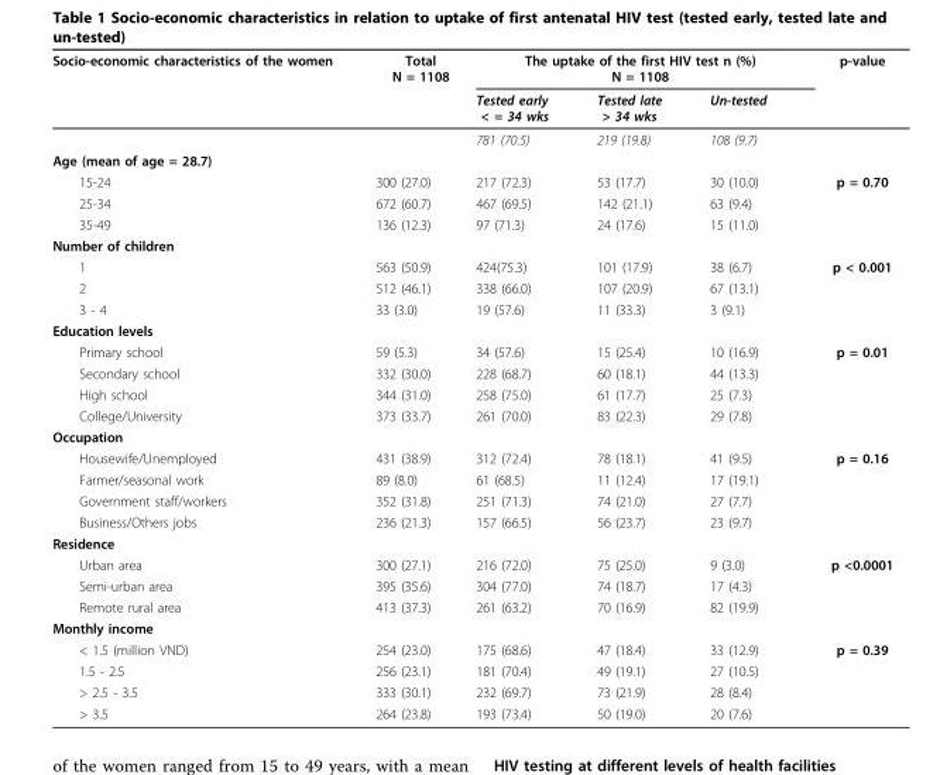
<table><thead><tr><td rowspan="2">Socio-economic characteristics of the women</td><td rowspan="2">Total N = 1108</td><td colspan="3">The uptake of the first HIV test n (%) N = 1108</td><td rowspan="2">p-value</td></tr><tr><td>Tested early &lt; = 34 wks</td><td>Tested late &gt; 34 wks</td><td>Un-tested</td></tr></thead><tbody><tr><td></td><td></td><td>781 (70.5)</td><td>219 (19.8)</td><td>108 (9.7)</td><td></td></tr><tr><td colspan="6">Age (mean of age = 28.7)</td></tr><tr><td>15-24</td><td>300 (27.0)</td><td>217 (72.3)</td><td>53 (17.7)</td><td>30 (10.0)</td><td>p = 0.70</td></tr><tr><td>25-34</td><td>672 (60.7)</td><td>467 (69.5)</td><td>142 (21.1)</td><td>63 (9.4)</td><td></td></tr><tr><td>35-49</td><td>136 (12.3)</td><td>97 (71.3)</td><td>24 (17.6)</td><td>15 (11.0)</td><td></td></tr><tr><td colspan="6">Number of children</td></tr><tr><td>1</td><td>563 (50.9)</td><td>424(75.3)</td><td>101 (17.9)</td><td>38 (6.7)</td><td>p &lt; 0.001</td></tr><tr><td>2</td><td>512 (46.1)</td><td>338 (66.0)</td><td>107 (20.9)</td><td>67 (13.1)</td><td></td></tr><tr><td>3 - 4</td><td>33 (3.0)</td><td>19 (57.6)</td><td>11 (33.3)</td><td>3 (9.1)</td><td></td></tr><tr><td colspan="6">Education levels</td></tr><tr><td>Primary school</td><td>59 (5.3)</td><td>34 (57.6)</td><td>15 (25.4)</td><td>10 (16.9)</td><td>p = 0.01</td></tr><tr><td>Secondary school</td><td>332 (30.0)</td><td>228 (68.7)</td><td>60 (18.1)</td><td>44 (13.3)</td><td></td></tr><tr><td>High school</td><td>344 (31.0)</td><td>258 (75.0)</td><td>61 (17.7)</td><td>25 (7.3)</td><td></td></tr><tr><td>College/University</td><td>373 (33.7)</td><td>261 (70.0)</td><td>83 (22.3)</td><td>29 (7.8)</td><td></td></tr><tr><td colspan="6">Occupation</td></tr><tr><td>Housewife/Unemployed</td><td>431 (38.9)</td><td>312 (72.4)</td><td>78 (18.1)</td><td>41 (9.5)</td><td>p = 0.16</td></tr><tr><td>Farmer/seasonal work</td><td>89 (8.0)</td><td>61 (68.5)</td><td>11 (12.4)</td><td>17 (19.1)</td><td></td></tr><tr><td>Government staff/workers</td><td>352 (31.8)</td><td>251 (71.3)</td><td>74 (21.0)</td><td>27 (7.7)</td><td></td></tr><tr><td>Business/Others jobs</td><td>236 (21.3)</td><td>157 (66.5)</td><td>56 (23.7)</td><td>23 (9.7)</td><td></td></tr><tr><td colspan="6">Residence</td></tr><tr><td>Urban area</td><td>300 (27.1)</td><td>216 (72.0)</td><td>75 (25.0)</td><td>9 (3.0)</td><td>p &lt;0.0001</td></tr><tr><td>Semi-urban area</td><td>395 (35.6)</td><td>304 (77.0)</td><td>74 (18.7)</td><td>17 (4.3)</td><td></td></tr><tr><td>Remote rural area</td><td>413 (37.3)</td><td>261 (63.2)</td><td>70 (16.9)</td><td>82 (19.9)</td><td></td></tr><tr><td colspan="6">Monthly income</td></tr><tr><td>&lt; 1.5 (million VND)</td><td>254 (23.0)</td><td>175 (68.6)</td><td>47 (18.4)</td><td>33 (12.9)</td><td>p = 0.39</td></tr><tr><td>1.5 - 2.5</td><td>256 (23.1)</td><td>181 (70.4)</td><td>49 (19.1)</td><td>27 (10.5)</td><td></td></tr><tr><td>&gt; 2.5 - 3.5</td><td>333 (30.1)</td><td>232 (69.7)</td><td>73 (21.9)</td><td>28 (8.4)</td><td></td></tr><tr><td>&gt; 3.5</td><td>264 (23.8)</td><td>193 (73.4)</td><td>50 (19.0)</td><td>20 (7.6)</td><td></td></tr></tbody></table>